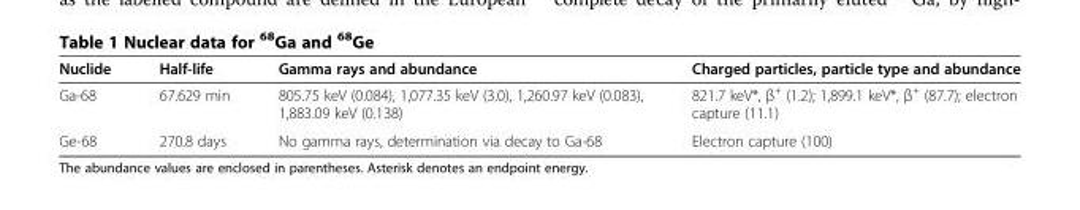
<table><thead><tr><td>Nuclide</td><td>Half-life</td><td>Gamma rays and abundance</td><td>Charged particles, particle type and abundance</td></tr></thead><tbody><tr><td>Ga-68</td><td>67.629 min</td><td>805.75 keV (0.084), 1,077.35 keV (3.0), 1,260.97 keV (0.083), 1,883.09 keV (0.138)</td><td>821.7 keV*, β<sup>+</sup> (1.2); 1,899.1 keV*, β<sup>+</sup> (87.7); electron capture (11.1)</td></tr><tr><td>Ge-68</td><td>270.8 days</td><td>No gamma rays, determination via decay to Ga-68</td><td>Electron capture (100)</td></tr></tbody></table>